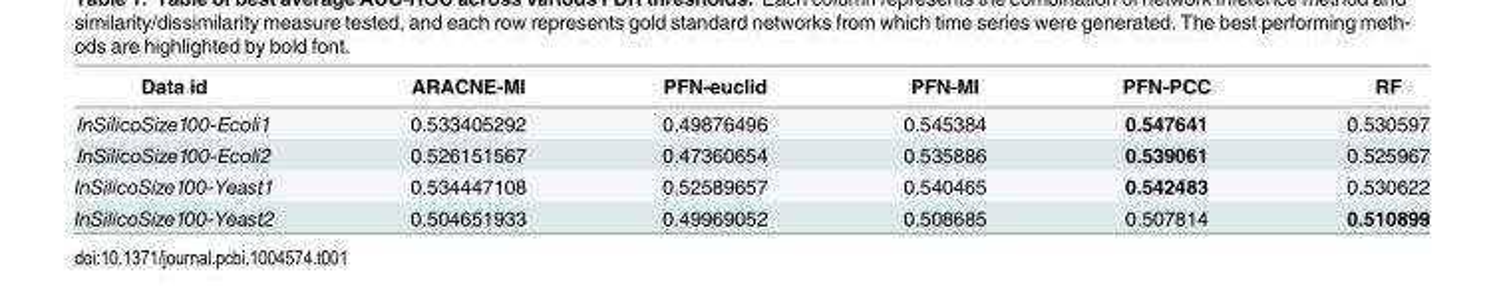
<table><thead><tr><td>Data id</td><td>ARACNE-MI</td><td>PFN-euclid</td><td>PFN-MI</td><td>PFN-PCC</td><td>RF</td></tr></thead><tbody><tr><td>InSilicoSize100-Ecoli1</td><td>0.533405292</td><td>0.49876496</td><td>0.545384</td><td>0.547641</td><td>0.530597</td></tr><tr><td>InSilicoSize100-Ecoli2</td><td>0.526151567</td><td>0.47360654</td><td>0.535886</td><td>0.539061</td><td>0.525967</td></tr><tr><td>InSilicoSize100-Yeast1</td><td>0.534447108</td><td>0.52589657</td><td>0.540465</td><td>0.542483</td><td>0.530622</td></tr><tr><td>InSilicoSize100-Yeast2</td><td>0.504651933</td><td>0.49969052</td><td>0.508685</td><td>0.507814</td><td>0.510899</td></tr></tbody></table>